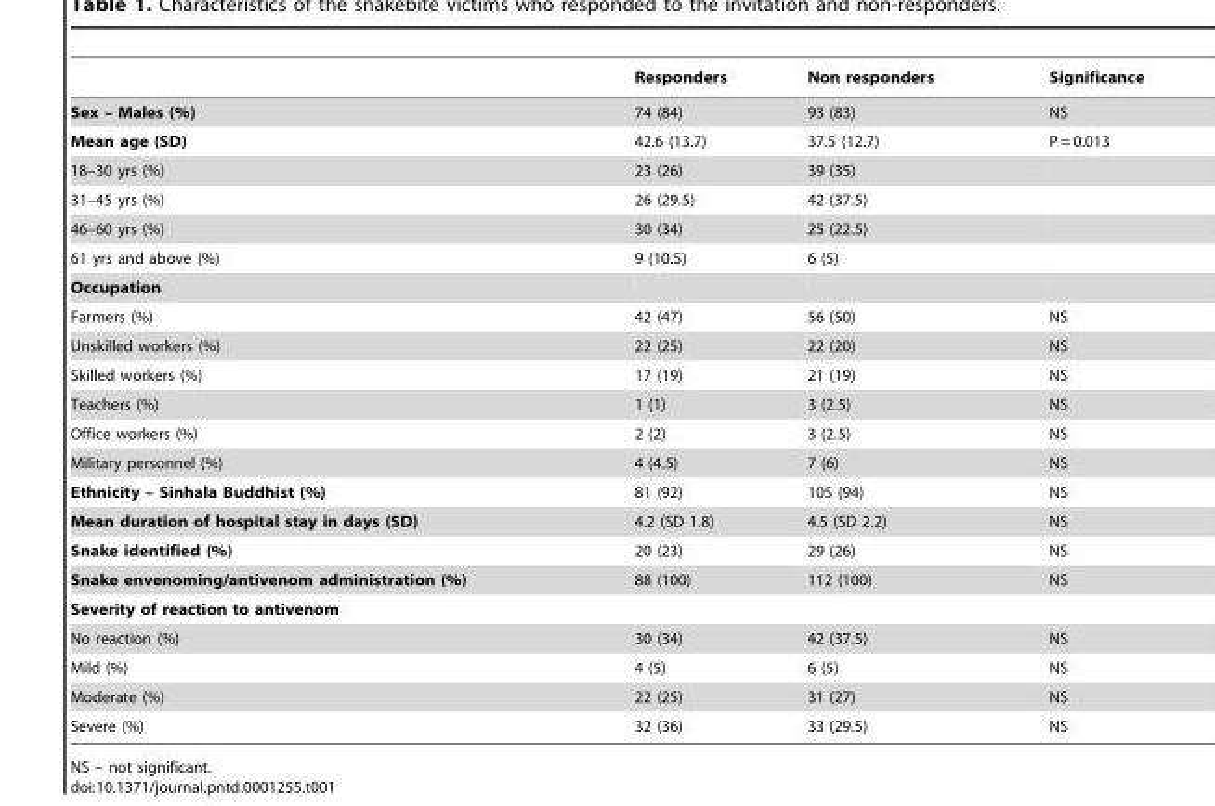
<table><thead><tr><td></td><td>Responders</td><td>Non responders</td><td>Significance</td></tr></thead><tbody><tr><td>Sex – Males (%)</td><td>74 (84)</td><td>93 (83)</td><td>NS</td></tr><tr><td>Mean age (SD)</td><td>42.6 (13.7)</td><td>37.5 (12.7)</td><td>P = 0.013</td></tr><tr><td>18–30 yrs (%)</td><td>23 (26)</td><td>39 (35)</td><td></td></tr><tr><td>31–45 yrs (%)</td><td>26 (29.5)</td><td>42 (37.5)</td><td></td></tr><tr><td>46–60 yrs (%)</td><td>30 (34)</td><td>25 (22.5)</td><td></td></tr><tr><td>61 yrs and above (%)</td><td>9 (10.5)</td><td>6 (5)</td><td></td></tr><tr><td colspan="4">Occupation</td></tr><tr><td>Farmers (%)</td><td>42 (47)</td><td>56 (50)</td><td>NS</td></tr><tr><td>Unskilled workers (%)</td><td>22 (25)</td><td>22 (20)</td><td>NS</td></tr><tr><td>Skilled workers (%)</td><td>17 (19)</td><td>21 (19)</td><td>NS</td></tr><tr><td>Teachers (%)</td><td>1 (1)</td><td>3 (2.5)</td><td>NS</td></tr><tr><td>Office workers (%)</td><td>2 (2)</td><td>3 (2.5)</td><td>NS</td></tr><tr><td>Military personnel (%)</td><td>4 (4.5)</td><td>7 (6)</td><td>NS</td></tr><tr><td>Ethnicity – Sinhala Buddhist (%)</td><td>81 (92)</td><td>105 (94)</td><td>NS</td></tr><tr><td>Mean duration of hospital stay in days (SD)</td><td>4.2 (SD 1.8)</td><td>4.5 (SD 2.2)</td><td>NS</td></tr><tr><td>Snake identified (%)</td><td>20 (23)</td><td>29 (26)</td><td>NS</td></tr><tr><td>Snake envenoming/antivenom administration (%)</td><td>88 (100)</td><td>112 (100)</td><td>NS</td></tr><tr><td colspan="4">Severity of reaction to antivenom</td></tr><tr><td>No reaction (%)</td><td>30 (34)</td><td>42 (37.5)</td><td>NS</td></tr><tr><td>Mild (%)</td><td>4 (5)</td><td>6 (5)</td><td>NS</td></tr><tr><td>Moderate (%)</td><td>22 (25)</td><td>31 (27)</td><td>NS</td></tr><tr><td>Severe (%)</td><td>32 (36)</td><td>33 (29.5)</td><td>NS</td></tr></tbody></table>